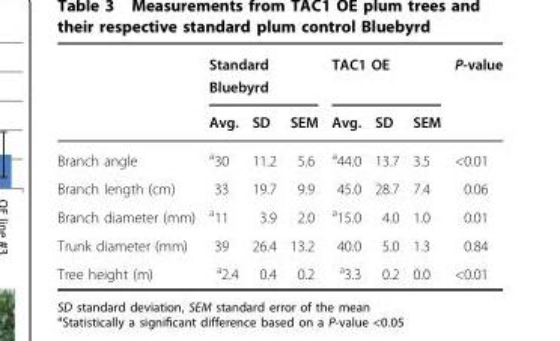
<table><thead><tr><td rowspan="2"></td><td colspan="3">Standard Bluebyrd</td><td colspan="3">TAC1 OE</td><td rowspan="2">P-value</td></tr><tr><td>Avg.</td><td>SD</td><td>SEM</td><td>Avg.</td><td>SD</td><td>SEM</td></tr></thead><tbody><tr><td>Branch angle</td><td><sup>a</sup>30</td><td>11.2</td><td>5.6</td><td><sup>a</sup>44.0</td><td>13.7</td><td>3.5</td><td>&lt;0.01</td></tr><tr><td>Branch length (cm)</td><td>33</td><td>19.7</td><td>9.9</td><td>45.0</td><td>28.7</td><td>7.4</td><td>0.06</td></tr><tr><td>Branch diameter (mm)</td><td><sup>a</sup>11</td><td>3.9</td><td>2.0</td><td><sup>a</sup>15.0</td><td>4.0</td><td>1.0</td><td>0.01</td></tr><tr><td>Trunk diameter (mm)</td><td>39</td><td>26.4</td><td>13.2</td><td>40.0</td><td>5.0</td><td>1.3</td><td>0.84</td></tr><tr><td>Tree height (m)</td><td><sup>a</sup>2.4</td><td>0.4</td><td>0.2</td><td><sup>a</sup>3.3</td><td>0.2</td><td>0.0</td><td>&lt;0.01</td></tr></tbody></table>